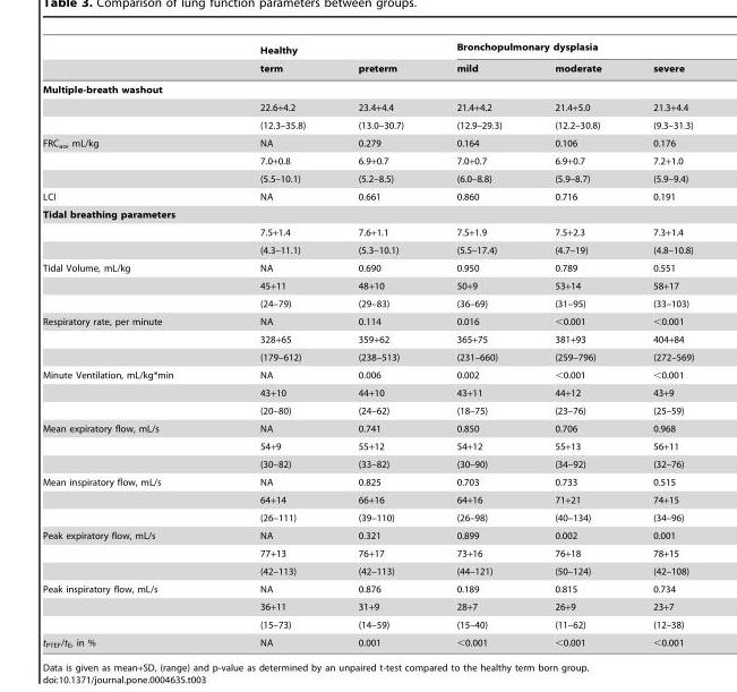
<table><thead><tr><td rowspan="2"></td><td colspan="2">Healthy</td><td colspan="3">Bronchopulmonary dysplasia</td></tr><tr><td>term</td><td>preterm</td><td>mild</td><td>moderate</td><td>severe</td></tr></thead><tbody><tr><td colspan="6">Multiple-breath washout</td></tr><tr><td></td><td>22.6+4.2</td><td>23.4+4.4</td><td>21.4+4.2</td><td>21.4+5.0</td><td>21.3+4.4</td></tr><tr><td></td><td>(12.3–35.8)</td><td>(13.0–30.7)</td><td>(12.9–29.3)</td><td>(12.2–30.8)</td><td>(9.3–31.3)</td></tr><tr><td rowspan="3">FRC<sub>ao</sub>, mL/kg</td><td>NA</td><td>0.279</td><td>0.164</td><td>0.106</td><td>0.176</td></tr><tr><td>7.0+0.8</td><td>6.9+0.7</td><td>7.0+0.7</td><td>6.9+0.7</td><td>7.2+1.0</td></tr><tr><td>(5.5–10.1)</td><td>(5.2–8.5)</td><td>(6.0–8.8)</td><td>(5.9–8.7)</td><td>(5.9–9.4)</td></tr><tr><td>LCI</td><td>NA</td><td>0.661</td><td>0.860</td><td>0.716</td><td>0.191</td></tr><tr><td colspan="6">Tidal breathing parameters</td></tr><tr><td></td><td>7.5+1.4</td><td>7.6+1.1</td><td>7.5+1.9</td><td>7.5+2.3</td><td>7.3+1.4</td></tr><tr><td></td><td>(4.3–11.1)</td><td>(5.3–10.1)</td><td>(5.5–17.4)</td><td>(4.7–19)</td><td>(4.8–10.8)</td></tr><tr><td rowspan="3">Tidal Volume, mL/kg</td><td>NA</td><td>0.690</td><td>0.950</td><td>0.789</td><td>0.551</td></tr><tr><td>45+11</td><td>48+10</td><td>50+9</td><td>53+14</td><td>58+17</td></tr><tr><td>(24–79)</td><td>(29–83)</td><td>(36–69)</td><td>(31–95)</td><td>(33–103)</td></tr><tr><td rowspan="3">Respiratory rate, per minute</td><td>NA</td><td>0.114</td><td>0.016</td><td>&lt;0.001</td><td>&lt;0.001</td></tr><tr><td>328+65</td><td>359+62</td><td>365+75</td><td>381+93</td><td>404+84</td></tr><tr><td>(179–612)</td><td>(238–513)</td><td>(231–660)</td><td>(259–796)</td><td>(272–569)</td></tr><tr><td rowspan="3">Minute Ventilation, mL/kg*min</td><td>NA</td><td>0.006</td><td>0.002</td><td>&lt;0.001</td><td>&lt;0.001</td></tr><tr><td>43+10</td><td>44+10</td><td>43+11</td><td>44+12</td><td>43+9</td></tr><tr><td>(20–80)</td><td>(24–62)</td><td>(18–75)</td><td>(23–76)</td><td>(25–59)</td></tr><tr><td rowspan="3">Mean expiratory flow, mL/s</td><td>NA</td><td>0.741</td><td>0.850</td><td>0.706</td><td>0.968</td></tr><tr><td>54+9</td><td>55+12</td><td>54+12</td><td>55+13</td><td>56+11</td></tr><tr><td>(30–82)</td><td>(33–82)</td><td>(30–90)</td><td>(34–92)</td><td>(32–76)</td></tr><tr><td rowspan="3">Mean inspiratory flow, mL/s</td><td>NA</td><td>0.825</td><td>0.703</td><td>0.733</td><td>0.515</td></tr><tr><td>64+14</td><td>66+16</td><td>64+16</td><td>71+21</td><td>74+15</td></tr><tr><td>(26–111)</td><td>(39–110)</td><td>(26–98)</td><td>(40–134)</td><td>(34–96)</td></tr><tr><td rowspan="3">Peak expiratory flow, mL/s</td><td>NA</td><td>0.321</td><td>0.899</td><td>0.002</td><td>0.001</td></tr><tr><td>77+13</td><td>76+17</td><td>73+16</td><td>76+18</td><td>78+15</td></tr><tr><td>(42–113)</td><td>(42–113)</td><td>(44–121)</td><td>(50–124)</td><td>(42–108)</td></tr><tr><td rowspan="3">Peak inspiratory flow, mL/s</td><td>NA</td><td>0.876</td><td>0.189</td><td>0.815</td><td>0.734</td></tr><tr><td>36+11</td><td>31+9</td><td>28+7</td><td>26+9</td><td>23+7</td></tr><tr><td>(15–73)</td><td>(14–59)</td><td>(15–40)</td><td>(11–62)</td><td>(12–38)</td></tr><tr><td>t<sub>PTEF</sub>/t<sub>E</sub>, in %</td><td>NA</td><td>0.001</td><td>&lt;0.001</td><td>&lt;0.001</td><td>&lt;0.001</td></tr></tbody></table>